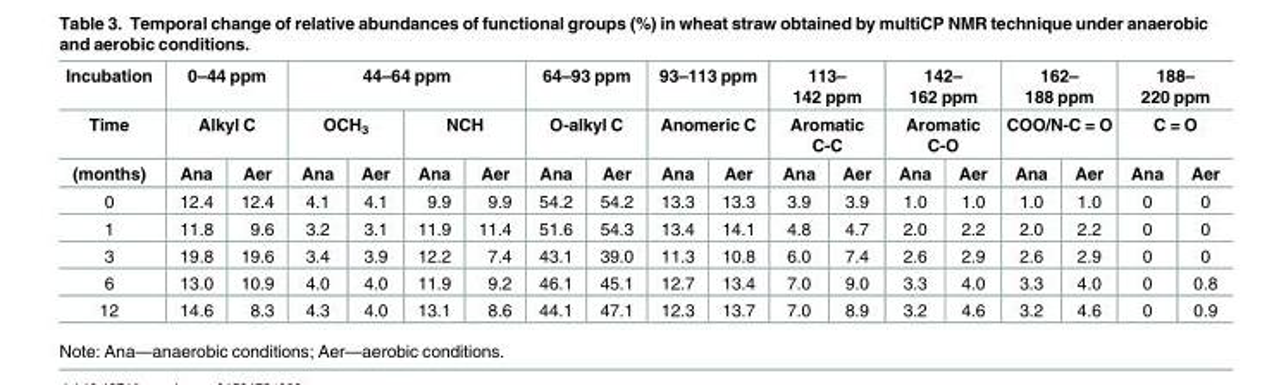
<table><thead><tr><td rowspan="3">Incubation Time (months)</td><td rowspan="2" colspan="2">0–44 ppm Alkyl C</td><td colspan="4">44–64 ppm</td><td rowspan="2" colspan="2">64–93 ppm O-alkyl C</td><td rowspan="2" colspan="2">93–113 ppm Anomeric C</td><td rowspan="2" colspan="2">113– 142 ppm Aromatic C-C</td><td rowspan="2" colspan="2">142– 162 ppm Aromatic C-O</td><td rowspan="2" colspan="2">162– 188 ppm COO/N-C = O</td><td rowspan="2" colspan="2">188– 220 ppm C = O</td></tr><tr><td colspan="2">OCH<sub>3</sub></td><td colspan="2">NCH</td></tr><tr><td>Ana</td><td>Aer</td><td>Ana</td><td>Aer</td><td>Ana</td><td>Aer</td><td>Ana</td><td>Aer</td><td>Ana</td><td>Aer</td><td>Ana</td><td>Aer</td><td>Ana</td><td>Aer</td><td>Ana</td><td>Aer</td><td>Ana</td><td>Aer</td></tr></thead><tbody><tr><td>0</td><td>12.4</td><td>12.4</td><td>4.1</td><td>4.1</td><td>9.9</td><td>9.9</td><td>54.2</td><td>54.2</td><td>13.3</td><td>13.3</td><td>3.9</td><td>3.9</td><td>1.0</td><td>1.0</td><td>1.0</td><td>1.0</td><td>0</td><td>0</td></tr><tr><td>1</td><td>11.8</td><td>9.6</td><td>3.2</td><td>3.1</td><td>11.9</td><td>11.4</td><td>51.6</td><td>54.3</td><td>13.4</td><td>14.1</td><td>4.8</td><td>4.7</td><td>2.0</td><td>2.2</td><td>2.0</td><td>2.2</td><td>0</td><td>0</td></tr><tr><td>3</td><td>19.8</td><td>19.6</td><td>3.4</td><td>3.9</td><td>12.2</td><td>7.4</td><td>43.1</td><td>39.0</td><td>11.3</td><td>10.8</td><td>6.0</td><td>7.4</td><td>2.6</td><td>2.9</td><td>2.6</td><td>2.9</td><td>0</td><td>0</td></tr><tr><td>6</td><td>13.0</td><td>10.9</td><td>4.0</td><td>4.0</td><td>11.9</td><td>9.2</td><td>46.1</td><td>45.1</td><td>12.7</td><td>13.4</td><td>7.0</td><td>9.0</td><td>3.3</td><td>4.0</td><td>3.3</td><td>4.0</td><td>0</td><td>0.8</td></tr><tr><td>12</td><td>14.6</td><td>8.3</td><td>4.3</td><td>4.0</td><td>13.1</td><td>8.6</td><td>44.1</td><td>47.1</td><td>12.3</td><td>13.7</td><td>7.0</td><td>8.9</td><td>3.2</td><td>4.6</td><td>3.2</td><td>4.6</td><td>0</td><td>0.9</td></tr></tbody></table>